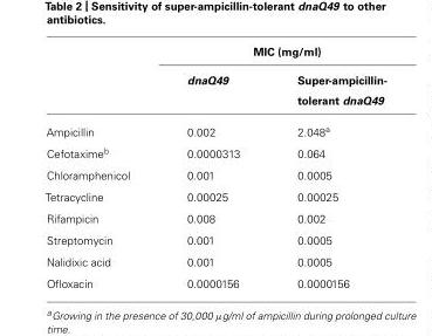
<table><thead><tr><td rowspan="2"></td><td colspan="2">MIC (mg/ml)</td></tr><tr><td>dnaQ49</td><td>Super-ampicillin- tolerant dnaQ49</td></tr></thead><tbody><tr><td>Ampicillin</td><td>0.002</td><td>2.048a</td></tr><tr><td>Cefotaxime<sup>b</sup></td><td>0.0000313</td><td>0.064</td></tr><tr><td>Chloramphenicol</td><td>0.001</td><td>0.0005</td></tr><tr><td>Tetracycline</td><td>0.00025</td><td>0.00025</td></tr><tr><td>Rifampicin</td><td>0.008</td><td>0.002</td></tr><tr><td>Streptomycin</td><td>0.001</td><td>0.0005</td></tr><tr><td>Nalidixic acid</td><td>0.001</td><td>0.0005</td></tr><tr><td>Ofloxacin</td><td>0.0000156</td><td>0.0000156</td></tr></tbody></table>